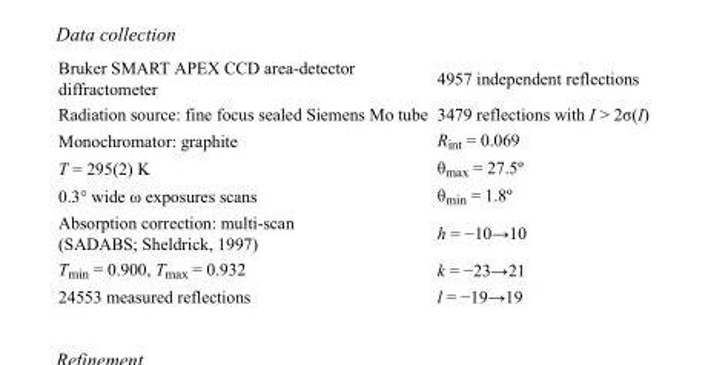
<table><tbody><tr><td>Bruker SMART APEX CCD area-detector diffractometer</td><td>4957 independent reflections</td></tr><tr><td>Radiation source: fine focus sealed Siemens Mo tube</td><td>3479 reflections with I &gt; 2σ(I)</td></tr><tr><td>Monochromator: graphite</td><td>R<sub>int</sub> = 0.069</td></tr><tr><td>T = 295(2) K</td><td>θ<sub>max</sub> = 27.5º</td></tr><tr><td>0.3° wide ω exposures scans</td><td>θ<sub>min</sub> = 1.8º</td></tr><tr><td>Absorption correction: multi-scan (SADABS; Sheldrick, 1997)</td><td>h = −10→10</td></tr><tr><td>T<sub>min</sub> = 0.900, T<sub>max</sub> = 0.932</td><td>k = −23→21</td></tr><tr><td>24553 measured reflections</td><td>l = −19→19</td></tr></tbody></table>